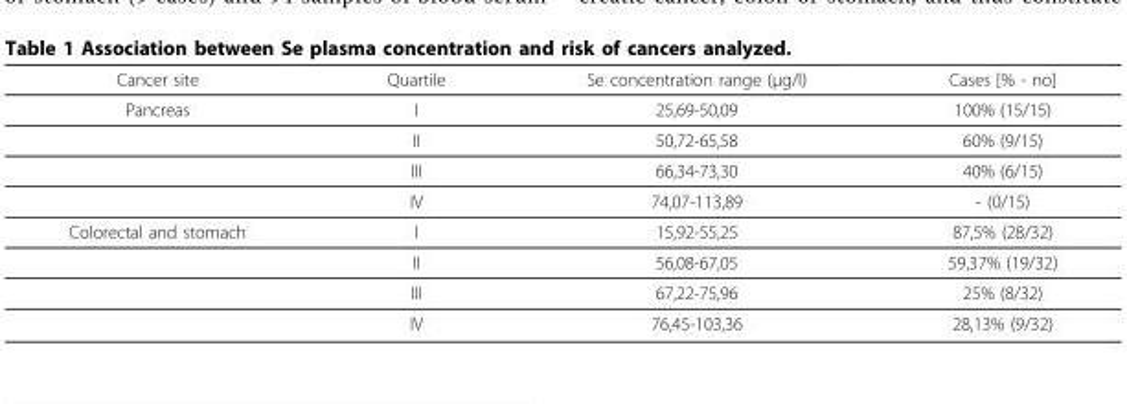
<table><thead><tr><td>Cancer site</td><td>Quartile</td><td>Se concentration range (µg/l)</td><td>Cases [% - no]</td></tr></thead><tbody><tr><td rowspan="4">Pancreas</td><td>I</td><td>25,69-50,09</td><td>100% (15/15)</td></tr><tr><td>II</td><td>50,72-65,58</td><td>60% (9/15)</td></tr><tr><td>III</td><td>66,34-73,30</td><td>40% (6/15)</td></tr><tr><td>IV</td><td>74,07-113,89</td><td>- (0/15)</td></tr><tr><td rowspan="4">Colorectal and stomach</td><td>I</td><td>15,92-55,25</td><td>87,5% (28/32)</td></tr><tr><td>II</td><td>56,08-67,05</td><td>59,37% (19/32)</td></tr><tr><td>III</td><td>67,22-75,96</td><td>25% (8/32)</td></tr><tr><td>IV</td><td>76,45-103,36</td><td>28,13% (9/32)</td></tr></tbody></table>